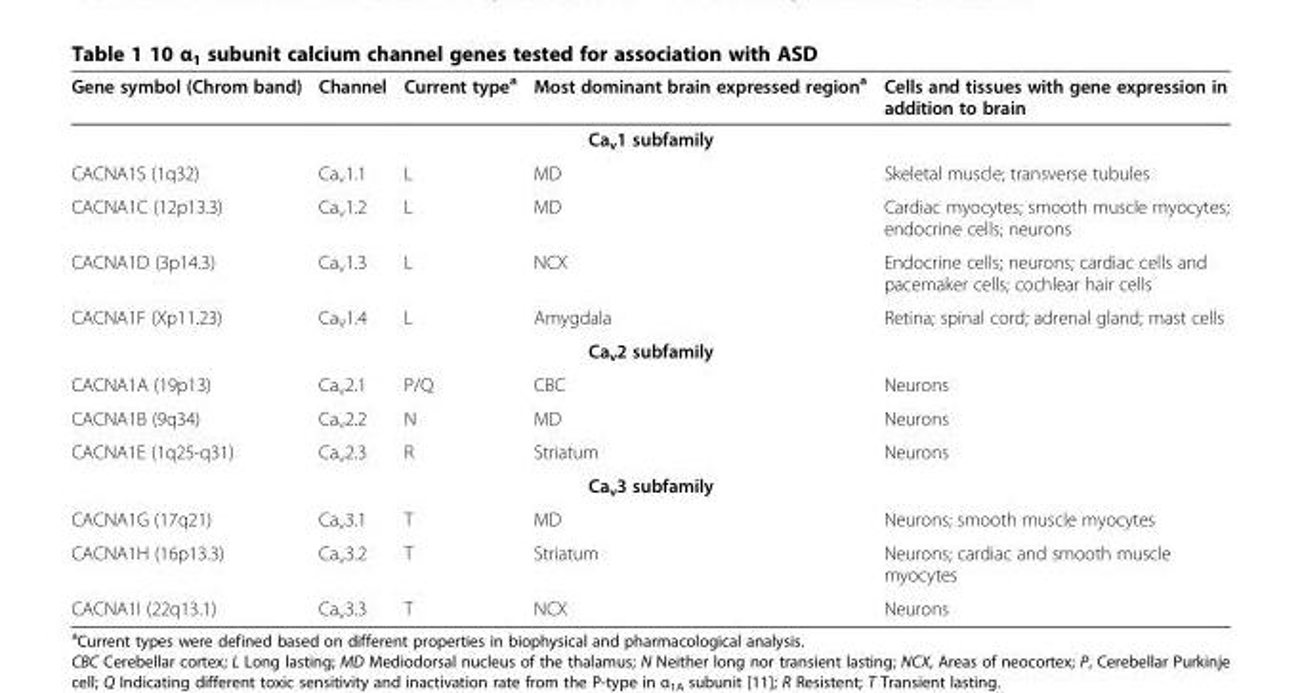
<table><thead><tr><td>Gene symbol (Chrom band)</td><td>Channel</td><td>Current type<sup>a</sup></td><td>Most dominant brain expressed region<sup>a</sup></td><td>Cells and tissues with gene expression in addition to brain</td></tr></thead><tbody><tr><td colspan="5">Ca<sub>v</sub>1 subfamily</td></tr><tr><td>CACNA1S (1q32)</td><td>Ca<sub>v</sub>1.1</td><td>L</td><td>MD</td><td>Skeletal muscle; transverse tubules</td></tr><tr><td>CACNA1C (12p13.3)</td><td>Ca<sub>v</sub>1.2</td><td>L</td><td>MD</td><td>Cardiac myocytes; smooth muscle myocytes; endocrine cells; neurons</td></tr><tr><td>CACNA1D (3p14.3)</td><td>Ca<sub>v</sub>1.3</td><td>L</td><td>NCX</td><td>Endocrine cells; neurons; cardiac cells and pacemaker cells; cochlear hair cells</td></tr><tr><td>CACNA1F (Xp11.23)</td><td>Ca<sub>V</sub>1.4</td><td>L</td><td>Amygdala</td><td>Retina; spinal cord; adrenal gland; mast cells</td></tr><tr><td colspan="5">Ca<sub>v</sub>2 subfamily</td></tr><tr><td>CACNA1A (19p13)</td><td>Ca<sub>v</sub>2.1</td><td>P/Q</td><td>CBC</td><td>Neurons</td></tr><tr><td>CACNA1B (9q34)</td><td>Ca<sub>v</sub>2.2</td><td>N</td><td>MD</td><td>Neurons</td></tr><tr><td>CACNA1E (1q25-q31)</td><td>Ca<sub>v</sub>2.3</td><td>R</td><td>Striatum</td><td>Neurons</td></tr><tr><td colspan="5">Ca<sub>v</sub>3 subfamily</td></tr><tr><td>CACNA1G (17q21)</td><td>Ca<sub>v</sub>3.1</td><td>T</td><td>MD</td><td>Neurons; smooth muscle myocytes</td></tr><tr><td>CACNA1H (16p13.3)</td><td>Ca<sub>v</sub>3.2</td><td>T</td><td>Striatum</td><td>Neurons; cardiac and smooth muscle myocytes</td></tr><tr><td>CACNA1I (22q13.1)</td><td>Ca<sub>v</sub>3.3</td><td>T</td><td>NCX</td><td>Neurons</td></tr></tbody></table>